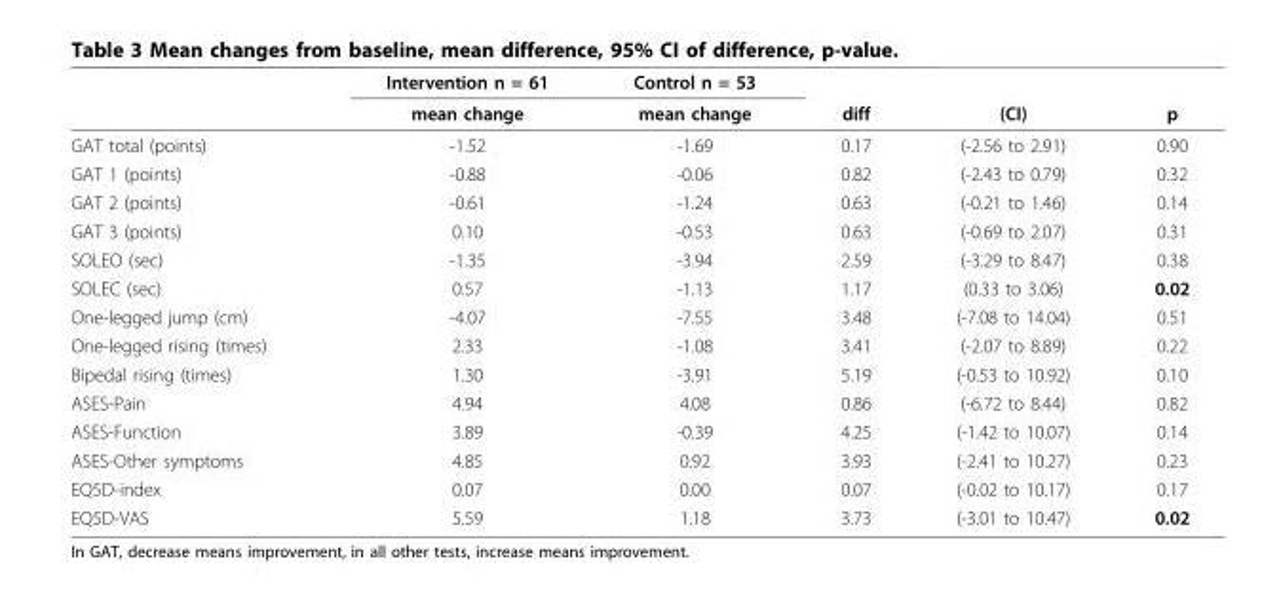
<table><thead><tr><td rowspan="2"></td><td rowspan="2">Intervention n = 61 mean change</td><td rowspan="2">Control n = 53 mean change</td><td rowspan="2">diff</td><td rowspan="2">(CI)</td><td rowspan="2">p</td></tr><tr></tr></thead><tbody><tr><td>GAT total (points)</td><td>-1.52</td><td>-1.69</td><td>0.17</td><td>(-2.56 to 2.91)</td><td>0.90</td></tr><tr><td>GAT 1 (points)</td><td>-0.88</td><td>-0.06</td><td>0.82</td><td>(-2.43 to 0.79)</td><td>0.32</td></tr><tr><td>GAT 2 (points)</td><td>-0.61</td><td>-1.24</td><td>0.63</td><td>(-0.21 to 1.46)</td><td>0.14</td></tr><tr><td>GAT 3 (points)</td><td>0.10</td><td>-0.53</td><td>0.63</td><td>(-0.69 to 2.07)</td><td>0.31</td></tr><tr><td>SOLEO (sec)</td><td>-1.35</td><td>-3.94</td><td>2.59</td><td>(-3.29 to 8.47)</td><td>0.38</td></tr><tr><td>SOLEC (sec)</td><td>0.57</td><td>-1.13</td><td>1.17</td><td>(0.33 to 3.06)</td><td>0.02</td></tr><tr><td>One-legged jump (cm)</td><td>-4.07</td><td>-7.55</td><td>3.48</td><td>(-7.08 to 14.04)</td><td>0.51</td></tr><tr><td>One-legged rising (times)</td><td>2.33</td><td>-1.08</td><td>3.41</td><td>(-2.07 to 8.89)</td><td>0.22</td></tr><tr><td>Bipedal rising (times)</td><td>1.30</td><td>-3.91</td><td>5.19</td><td>(-0.53 to 10.92)</td><td>0.10</td></tr><tr><td>ASES-Pain</td><td>4.94</td><td>4.08</td><td>0.86</td><td>(-6.72 to 8.44)</td><td>0.82</td></tr><tr><td>ASES-Function</td><td>3.89</td><td>-0.39</td><td>4.25</td><td>(-1.42 to 10.07)</td><td>0.14</td></tr><tr><td>ASES-Other symptoms</td><td>4.85</td><td>0.92</td><td>3.93</td><td>(-2.41 to 10.27)</td><td>0.23</td></tr><tr><td>EQ5D-index</td><td>0.07</td><td>0.00</td><td>0.07</td><td>(-0.02 to 10.17)</td><td>0.17</td></tr><tr><td>EQ5D-VAS</td><td>5.59</td><td>1.18</td><td>3.73</td><td>(-3.01 to 10.47)</td><td>0.02</td></tr></tbody></table>